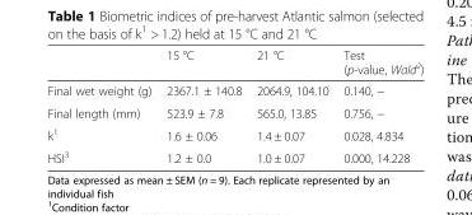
<table><thead><tr><td></td><td>15 °C</td><td>21 °C</td><td>Test (p-value, Wald<sup>2</sup>)</td></tr></thead><tbody><tr><td>Final wet weight (g)</td><td>2367.1 ± 140.8</td><td>2064.9, 104.10</td><td>0.140, −</td></tr><tr><td>Final length (mm)</td><td>523.9 ± 7.8</td><td>565.0, 13.85</td><td>0.756, −</td></tr><tr><td>k<sup>1</sup></td><td>1.6 ± 0.06</td><td>1.4 ± 0.07</td><td>0.028, 4.834</td></tr><tr><td>HSI<sup>3</sup></td><td>1.2 ± 0.0</td><td>1.0 ± 0.07</td><td>0.000, 14.228</td></tr></tbody></table>